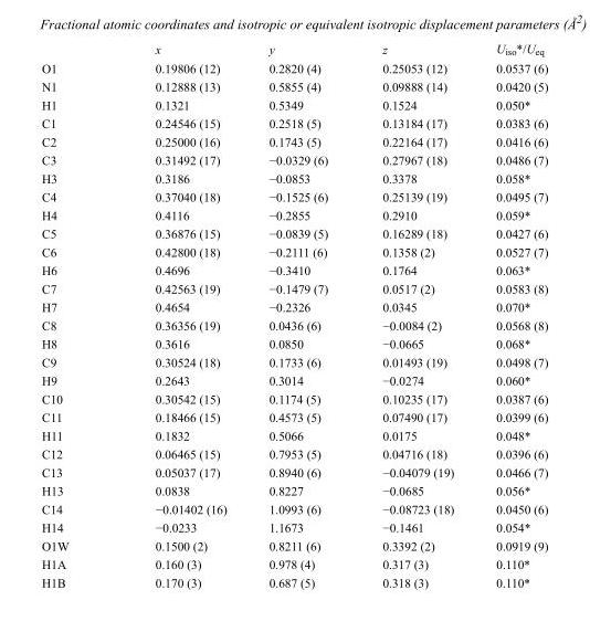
<table><thead><tr><td></td><td>x</td><td>y</td><td>z</td><td>U<sub>iso</sub>*/U<sub>eq</sub></td></tr></thead><tbody><tr><td>O1</td><td>0.19806 (12)</td><td>0.2820 (4)</td><td>0.25053 (12)</td><td>0.0537 (6)</td></tr><tr><td>N1</td><td>0.12888 (13)</td><td>0.5855 (4)</td><td>0.09888 (14)</td><td>0.0420 (5)</td></tr><tr><td>H1</td><td>0.1321</td><td>0.5349</td><td>0.1524</td><td>0.050*</td></tr><tr><td>C1</td><td>0.24546 (15)</td><td>0.2518 (5)</td><td>0.13184 (17)</td><td>0.0383 (6)</td></tr><tr><td>C2</td><td>0.25000 (16)</td><td>0.1743 (5)</td><td>0.22164 (17)</td><td>0.0416 (6)</td></tr><tr><td>C3</td><td>0.31492 (17)</td><td>−0.0329 (6)</td><td>0.27967 (18)</td><td>0.0486 (7)</td></tr><tr><td>H3</td><td>0.3186</td><td>−0.0853</td><td>0.3378</td><td>0.058*</td></tr><tr><td>C4</td><td>0.37040 (18)</td><td>−0.1525 (6)</td><td>0.25139 (19)</td><td>0.0495 (7)</td></tr><tr><td>H4</td><td>0.4116</td><td>−0.2855</td><td>0.2910</td><td>0.059*</td></tr><tr><td>C5</td><td>0.36876 (15)</td><td>−0.0839 (5)</td><td>0.16289 (18)</td><td>0.0427 (6)</td></tr><tr><td>C6</td><td>0.42800 (18)</td><td>−0.2111 (6)</td><td>0.1358 (2)</td><td>0.0527 (7)</td></tr><tr><td>H6</td><td>0.4696</td><td>−0.3410</td><td>0.1764</td><td>0.063*</td></tr><tr><td>C7</td><td>0.42563 (19)</td><td>−0.1479 (7)</td><td>0.0517 (2)</td><td>0.0583 (8)</td></tr><tr><td>H7</td><td>0.4654</td><td>−0.2326</td><td>0.0345</td><td>0.070*</td></tr><tr><td>C8</td><td>0.36356 (19)</td><td>0.0436 (6)</td><td>−0.0084 (2)</td><td>0.0568 (8)</td></tr><tr><td>H8</td><td>0.3616</td><td>0.0850</td><td>−0.0665</td><td>0.068*</td></tr><tr><td>C9</td><td>0.30524 (18)</td><td>0.1733 (6)</td><td>0.01493 (19)</td><td>0.0498 (7)</td></tr><tr><td>H9</td><td>0.2643</td><td>0.3014</td><td>−0.0274</td><td>0.060*</td></tr><tr><td>C10</td><td>0.30542 (15)</td><td>0.1174 (5)</td><td>0.10235 (17)</td><td>0.0387 (6)</td></tr><tr><td>C11</td><td>0.18466 (15)</td><td>0.4573 (5)</td><td>0.07490 (17)</td><td>0.0399 (6)</td></tr><tr><td>H11</td><td>0.1832</td><td>0.5066</td><td>0.0175</td><td>0.048*</td></tr><tr><td>C12</td><td>0.06465 (15)</td><td>0.7953 (5)</td><td>0.04716 (18)</td><td>0.0396 (6)</td></tr><tr><td>C13</td><td>0.05037 (17)</td><td>0.8940 (6)</td><td>−0.04079 (19)</td><td>0.0466 (7)</td></tr><tr><td>H13</td><td>0.0838</td><td>0.8227</td><td>−0.0685</td><td>0.056*</td></tr><tr><td>C14</td><td>−0.01402 (16)</td><td>1.0993 (6)</td><td>−0.08723 (18)</td><td>0.0450 (6)</td></tr><tr><td>H14</td><td>−0.0233</td><td>1.1673</td><td>−0.1461</td><td>0.054*</td></tr><tr><td>O1W</td><td>0.1500 (2)</td><td>0.8211 (6)</td><td>0.3392 (2)</td><td>0.0919 (9)</td></tr><tr><td>H1A</td><td>0.160 (3)</td><td>0.978 (4)</td><td>0.317 (3)</td><td>0.110*</td></tr><tr><td>H1B</td><td>0.170 (3)</td><td>0.687 (5)</td><td>0.318 (3)</td><td>0.110*</td></tr></tbody></table>